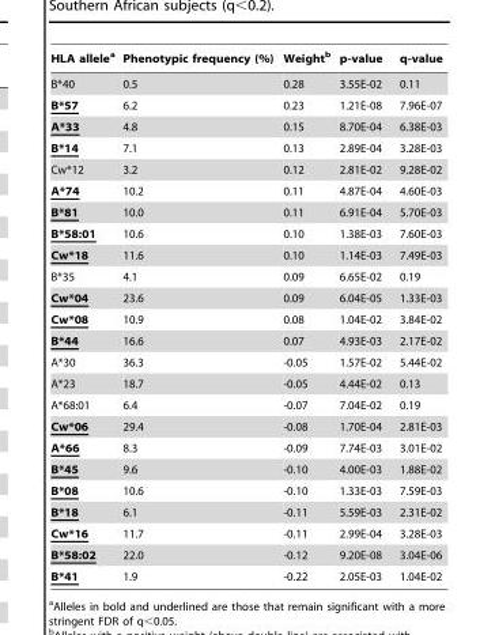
<table><thead><tr><td>HLA allele<sup>a</sup></td><td>Phenotypic frequency (%)</td><td>Weight<sup>b</sup></td><td>p-value</td><td>q-value</td></tr></thead><tbody><tr><td>B*40</td><td>0.5</td><td>0.28</td><td>3.55E-02</td><td>0.11</td></tr><tr><td>B*57</td><td>6.2</td><td>0.23</td><td>1.21E-08</td><td>7.96E-07</td></tr><tr><td>A*33</td><td>4.8</td><td>0.15</td><td>8.70E-04</td><td>6.38E-03</td></tr><tr><td>B*14</td><td>7.1</td><td>0.13</td><td>2.89E-04</td><td>3.28E-03</td></tr><tr><td>Cw*12</td><td>3.2</td><td>0.12</td><td>2.81E-02</td><td>9.28E-02</td></tr><tr><td>A*74</td><td>10.2</td><td>0.11</td><td>4.87E-04</td><td>4.60E-03</td></tr><tr><td>B*81</td><td>10.0</td><td>0.11</td><td>6.91E-04</td><td>5.70E-03</td></tr><tr><td>B*58:01</td><td>10.6</td><td>0.10</td><td>1.38E-03</td><td>7.60E-03</td></tr><tr><td>Cw*18</td><td>11.6</td><td>0.10</td><td>1.14E-03</td><td>7.49E-03</td></tr><tr><td>B*35</td><td>4.1</td><td>0.09</td><td>6.65E-02</td><td>0.19</td></tr><tr><td>Cw*04</td><td>23.6</td><td>0.09</td><td>6.04E-05</td><td>1.33E-03</td></tr><tr><td>Cw*08</td><td>10.9</td><td>0.08</td><td>1.04E-02</td><td>3.84E-02</td></tr><tr><td>B*44</td><td>16.6</td><td>0.07</td><td>4.93E-03</td><td>2.17E-02</td></tr><tr><td>A*30</td><td>36.3</td><td>-0.05</td><td>1.57E-02</td><td>5.44E-02</td></tr><tr><td>A*23</td><td>18.7</td><td>-0.05</td><td>4.44E-02</td><td>0.13</td></tr><tr><td>A*68:01</td><td>6.4</td><td>-0.07</td><td>7.04E-02</td><td>0.19</td></tr><tr><td>Cw*06</td><td>29.4</td><td>-0.08</td><td>1.70E-04</td><td>2.81E-03</td></tr><tr><td>A*66</td><td>8.3</td><td>-0.09</td><td>7.74E-03</td><td>3.01E-02</td></tr><tr><td>B*45</td><td>9.6</td><td>-0.10</td><td>4.00E-03</td><td>1.88E-02</td></tr><tr><td>B*08</td><td>10.6</td><td>-0.10</td><td>1.33E-03</td><td>7.59E-03</td></tr><tr><td>B*18</td><td>6.1</td><td>-0.11</td><td>5.59E-03</td><td>2.31E-02</td></tr><tr><td>Cw*16</td><td>11.7</td><td>-0.11</td><td>2.99E-04</td><td>3.28E-03</td></tr><tr><td>B*58:02</td><td>22.0</td><td>-0.12</td><td>9.20E-08</td><td>3.04E-06</td></tr><tr><td>B*41</td><td>1.9</td><td>-0.22</td><td>2.05E-03</td><td>1.04E-02</td></tr></tbody></table>